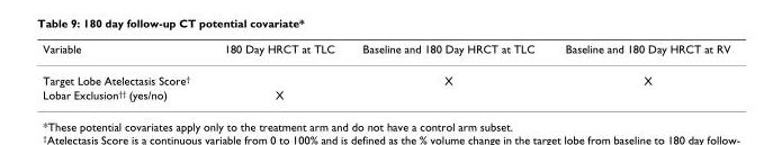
<table><thead><tr><td>Variable</td><td>180 Day HRCT at TLC</td><td>Baseline and 180 Day HRCT at TLC</td><td>Baseline and 180 Day HRCT at RV</td></tr></thead><tbody><tr><td>Target Lobe Atelectasis Score<sup>†</sup></td><td></td><td>X</td><td>X</td></tr><tr><td>Lobar Exclusion<sup>††</sup> (yes/no)</td><td>X</td><td></td><td></td></tr></tbody></table>